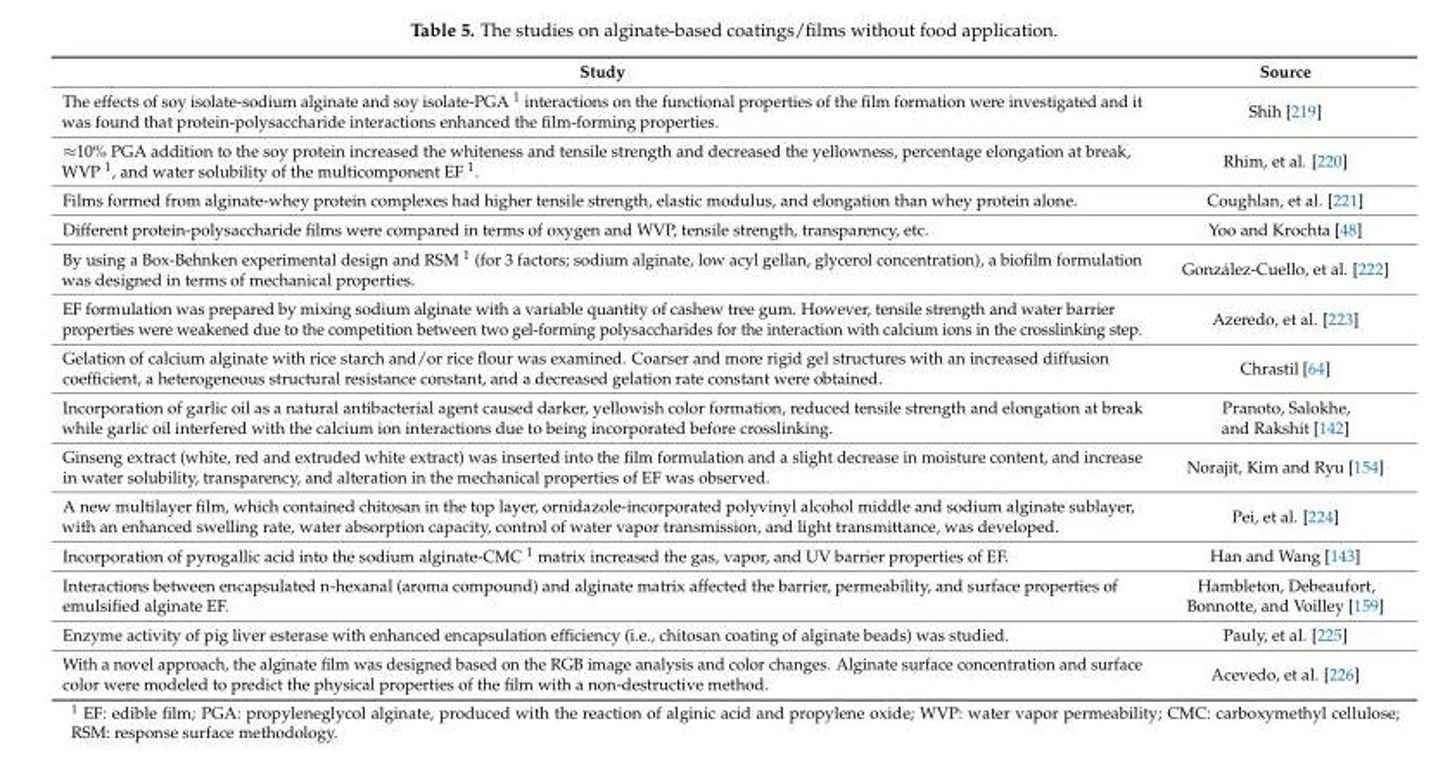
<table><thead><tr><td>Study</td><td>Source</td></tr></thead><tbody><tr><td>The effects of soy isolate-sodium alginate and soy isolate-PGA <sup>1</sup> interactions on the functional properties of the film formation were investigated and it was found that protein-polysaccharide interactions enhanced the film-forming properties.</td><td>Shih [219]</td></tr><tr><td>≈10% PGA addition to the soy protein increased the whiteness and tensile strength and decreased the yellowness, percentage elongation at break, WVP <sup>1</sup>, and water solubility of the multicomponent EF <sup>1</sup>.</td><td>Rhim, et al. [220]</td></tr><tr><td>Films formed from alginate-whey protein complexes had higher tensile strength, elastic modulus, and elongation than whey protein alone.</td><td>Coughlan, et al. [221]</td></tr><tr><td>Different protein-polysaccharide films were compared in terms of oxygen and WVP, tensile strength, transparency, etc.</td><td>Yoo and Krochta [48]</td></tr><tr><td>By using a Box-Behnken experimental design and RSM <sup>1</sup> (for 3 factors; sodium alginate, low acyl gellan, glycerol concentration), a biofilm formulation was designed in terms of mechanical properties.</td><td>González-Cuello, et al. [222]</td></tr><tr><td>EF formulation was prepared by mixing sodium alginate with a variable quantity of cashew tree gum. However, tensile strength and water barrier properties were weakened due to the competition between two gel-forming polysaccharides for the interaction with calcium ions in the crosslinking step.</td><td>Azeredo, et al. [223]</td></tr><tr><td>Gelation of calcium alginate with rice starch and/or rice flour was examined. Coarser and more rigid gel structures with an increased diffusion coefficient, a heterogeneous structural resistance constant, and a decreased gelation rate constant were obtained.</td><td>Chrastil [64]</td></tr><tr><td>Incorporation of garlic oil as a natural antibacterial agent caused darker, yellowish color formation, reduced tensile strength and elongation at break while garlic oil interfered with the calcium ion interactions due to being incorporated before crosslinking.</td><td>Pranoto, Salokhe, and Rakshit [142]</td></tr><tr><td>Ginseng extract (white, red and extruded white extract) was inserted into the film formulation and a slight decrease in moisture content, and increase in water solubility, transparency, and alteration in the mechanical properties of EF was observed.</td><td>Norajit, Kim and Ryu [154]</td></tr><tr><td>A new multilayer film, which contained chitosan in the top layer, ornidazole-incorporated polyvinyl alcohol middle and sodium alginate sublayer, with an enhanced swelling rate, water absorption capacity, control of water vapor transmission, and light transmittance, was developed.</td><td>Pei, et al. [224]</td></tr><tr><td>Incorporation of pyrogallic acid into the sodium alginate-CMC <sup>1</sup> matrix increased the gas, vapor, and UV barrier properties of EF.</td><td>Han and Wang [143]</td></tr><tr><td>Interactions between encapsulated n-hexanal (aroma compound) and alginate matrix affected the barrier, permeability, and surface properties of emulsified alginate EF.</td><td>Hambleton, Debeaufort, Bonnotte, and Voilley [159]</td></tr><tr><td>Enzyme activity of pig liver esterase with enhanced encapsulation efficiency (i.e., chitosan coating of alginate beads) was studied.</td><td>Pauly, et al. [225]</td></tr><tr><td>With a novel approach, the alginate film was designed based on the RGB image analysis and color changes. Alginate surface concentration and surface color were modeled to predict the physical properties of the film with a non-destructive method.</td><td>Acevedo, et al. [226]</td></tr></tbody></table>